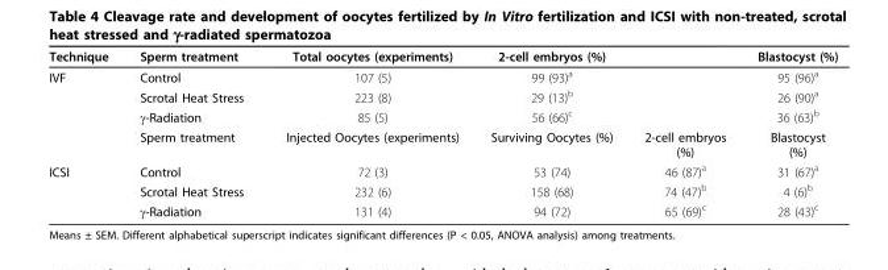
<table><thead><tr><td>Technique</td><td>Sperm treatment</td><td>Total oocytes (experiments)</td><td>2-cell embryos (%)</td><td></td><td>Blastocyst (%)</td></tr></thead><tbody><tr><td rowspan="4">IVF</td><td>Control</td><td>107 (5)</td><td>99 (93)<sup>a</sup></td><td></td><td>95 (96)<sup>a</sup></td></tr><tr><td>Scrotal Heat Stress</td><td>223 (8)</td><td>29 (13)<sup>b</sup></td><td></td><td>26 (90)<sup>a</sup></td></tr><tr><td>γ-Radiation</td><td>85 (5)</td><td>56 (66)<sup>c</sup></td><td></td><td>36 (63)<sup>b</sup></td></tr><tr><td>Sperm treatment</td><td>Injected Oocytes (experiments)</td><td>Surviving Oocytes (%)</td><td>2-cell embryos (%)</td><td>Blastocyst (%)</td></tr><tr><td rowspan="3">ICSI</td><td>Control</td><td>72 (3)</td><td>53 (74)</td><td>46 (87)<sup>a</sup></td><td>31 (67)<sup>a</sup></td></tr><tr><td>Scrotal Heat Stress</td><td>232 (6)</td><td>158 (68)</td><td>74 (47)<sup>b</sup></td><td>4 (6)<sup>b</sup></td></tr><tr><td>γ-Radiation</td><td>131 (4)</td><td>94 (72)</td><td>65 (69)<sup>c</sup></td><td>28 (43)<sup>c</sup></td></tr></tbody></table>